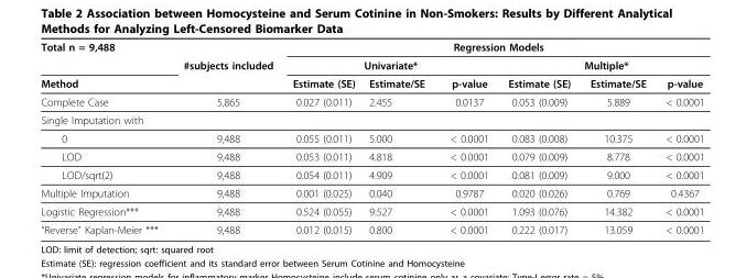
<table><thead><tr><td rowspan="3">Total n = 9,488 Method</td><td rowspan="3">#subjects included</td><td colspan="6">Regression Models</td></tr><tr><td colspan="3">Univariate*</td><td colspan="3">Multiple*</td></tr><tr><td>Estimate (SE)</td><td>Estimate/SE</td><td>p-value</td><td>Estimate (SE)</td><td>Estimate/SE</td><td>p-value</td></tr></thead><tbody><tr><td>Complete Case</td><td>5,865</td><td>0.027 (0.011)</td><td>2.455</td><td>0.0137</td><td>0.053 (0.009)</td><td>5.889</td><td>&lt; 0.0001</td></tr><tr><td colspan="8">Single Imputation with</td></tr><tr><td>0</td><td>9,488</td><td>0.055 (0.011)</td><td>5.000</td><td>&lt; 0.0001</td><td>0.083 (0.008)</td><td>10.375</td><td>&lt; 0.0001</td></tr><tr><td>LOD</td><td>9,488</td><td>0.053 (0.011)</td><td>4.818</td><td>&lt; 0.0001</td><td>0.079 (0.009)</td><td>8.778</td><td>&lt; 0.0001</td></tr><tr><td>LOD/sqrt(2)</td><td>9,488</td><td>0.054 (0.011)</td><td>4.909</td><td>&lt; 0.0001</td><td>0.081 (0.009)</td><td>9.000</td><td>&lt; 0.0001</td></tr><tr><td>Multiple Imputation</td><td>9,488</td><td>0.001 (0.025)</td><td>0.040</td><td>0.9787</td><td>0.020 (0.026)</td><td>0.769</td><td>0.4367</td></tr><tr><td>Logistic Regression***</td><td>9,488</td><td>0.524 (0.055)</td><td>9.527</td><td>&lt; 0.0001</td><td>1.093 (0.076)</td><td>14.382</td><td>&lt; 0.0001</td></tr><tr><td>“Reverse” Kaplan-Meier ***</td><td>9,488</td><td>0.012 (0.015)</td><td>0.800</td><td>&lt; 0.0001</td><td>0.222 (0.017)</td><td>13.059</td><td>&lt; 0.0001</td></tr></tbody></table>